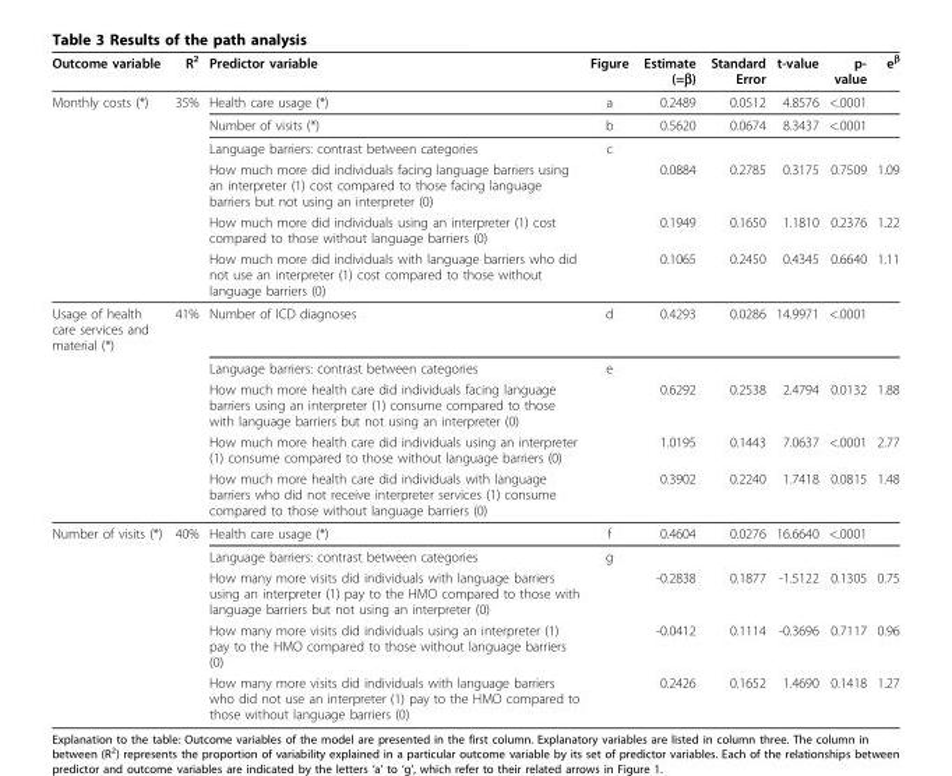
<table><thead><tr><td>Outcome variable</td><td>R<sup>2</sup></td><td>Predictor variable</td><td>Figure</td><td>Estimate (=β)</td><td>Standard Error</td><td>t-value</td><td>p- value</td><td>e<sup>β</sup></td></tr></thead><tbody><tr><td rowspan="6">Monthly costs (*)</td><td>35%</td><td>Health care usage (*)</td><td>a</td><td>0.2489</td><td>0.0512</td><td>4.8576</td><td>&lt;.0001</td><td></td></tr><tr><td></td><td>Number of visits (*)</td><td>b</td><td>0.5620</td><td>0.0674</td><td>8.3437</td><td>&lt;.0001</td><td></td></tr><tr><td></td><td>Language barriers: contrast between categories</td><td>c</td><td></td><td></td><td></td><td></td><td></td></tr><tr><td></td><td>How much more did individuals facing language barriers using an interpreter (1) cost compared to those facing language barriers but not using an interpreter (0)</td><td></td><td>0.0884</td><td>0.2785</td><td>0.3175</td><td>0.7509</td><td>1.09</td></tr><tr><td></td><td>How much more did individuals using an interpreter (1) cost compared to those without language barriers (0)</td><td></td><td>0.1949</td><td>0.1650</td><td>1.1810</td><td>0.2376</td><td>1.22</td></tr><tr><td></td><td>How much more did individuals with language barriers who did not use an interpreter (1) cost compared to those without language barriers (0)</td><td></td><td>0.1065</td><td>0.2450</td><td>0.4345</td><td>0.6640</td><td>1.11</td></tr><tr><td rowspan="5">Usage of health care services and material (*)</td><td>41%</td><td>Number of ICD diagnoses</td><td>d</td><td>0.4293</td><td>0.0286</td><td>14.9971</td><td>&lt;.0001</td><td></td></tr><tr><td></td><td>Language barriers: contrast between categories</td><td>e</td><td></td><td></td><td></td><td></td><td></td></tr><tr><td></td><td>How much more health care did individuals facing language barriers using an interpreter (1) consume compared to those with language barriers but not using an interpreter (0)</td><td></td><td>0.6292</td><td>0.2538</td><td>2.4794</td><td>0.0132</td><td>1.88</td></tr><tr><td></td><td>How much more health care did individuals using an interpreter (1) consume compared to those without language barriers (0)</td><td></td><td>1.0195</td><td>0.1443</td><td>7.0637</td><td>&lt;.0001</td><td>2.77</td></tr><tr><td></td><td>How much more health care did individuals with language barriers who did not receive interpreter services (1) consume compared to those without language barriers (0)</td><td></td><td>0.3902</td><td>0.2240</td><td>1.7418</td><td>0.0815</td><td>1.48</td></tr><tr><td rowspan="5">Number of visits (*)</td><td>40%</td><td>Health care usage (*)</td><td>f</td><td>0.4604</td><td>0.0276</td><td>16.6640</td><td>&lt;.0001</td><td></td></tr><tr><td></td><td>Language barriers: contrast between categories</td><td>g</td><td></td><td></td><td></td><td></td><td></td></tr><tr><td></td><td>How many more visits did individuals with language barriers using an interpreter (1) pay to the HMO compared to those with language barriers but not using an interpreter (0)</td><td></td><td>-0.2838</td><td>0.1877</td><td>-1.5122</td><td>0.1305</td><td>0.75</td></tr><tr><td></td><td>How many more visits did individuals using an interpreter (1) pay to the HMO compared to those without language barriers (0)</td><td></td><td>-0.0412</td><td>0.1114</td><td>-0.3696</td><td>0.7117</td><td>0.96</td></tr><tr><td></td><td>How many more visits did individuals with language barriers who did not use an interpreter (1) pay to the HMO compared to those without language barriers (0)</td><td></td><td>0.2426</td><td>0.1652</td><td>1.4690</td><td>0.1418</td><td>1.27</td></tr></tbody></table>